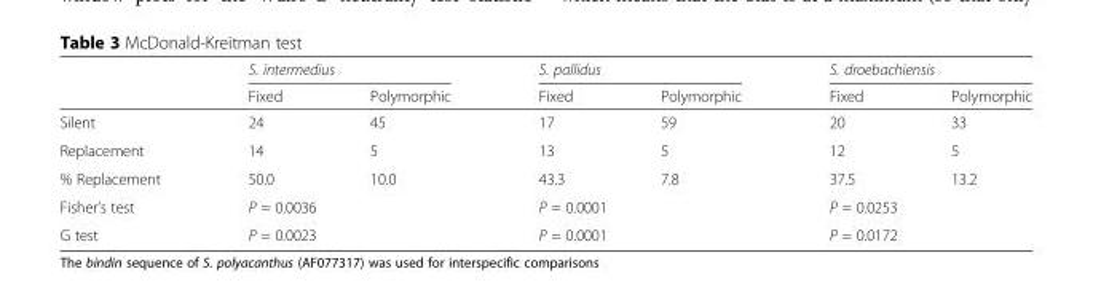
<table><thead><tr><td rowspan="2"></td><td colspan="2">S. intermedius</td><td colspan="2">S. pallidus</td><td colspan="2">S. droebachiensis</td></tr><tr><td>Fixed</td><td>Polymorphic</td><td>Fixed</td><td>Polymorphic</td><td>Fixed</td><td>Polymorphic</td></tr></thead><tbody><tr><td>Silent</td><td>24</td><td>45</td><td>17</td><td>59</td><td>20</td><td>33</td></tr><tr><td>Replacement</td><td>14</td><td>5</td><td>13</td><td>5</td><td>12</td><td>5</td></tr><tr><td>% Replacement</td><td>50.0</td><td>10.0</td><td>43.3</td><td>7.8</td><td>37.5</td><td>13.2</td></tr><tr><td>Fisher’s test</td><td colspan="2">P = 0.0036</td><td colspan="2">P = 0.0001</td><td colspan="2">P = 0.0253</td></tr><tr><td>G test</td><td colspan="2">P = 0.0023</td><td colspan="2">P = 0.0001</td><td colspan="2">P = 0.0172</td></tr></tbody></table>